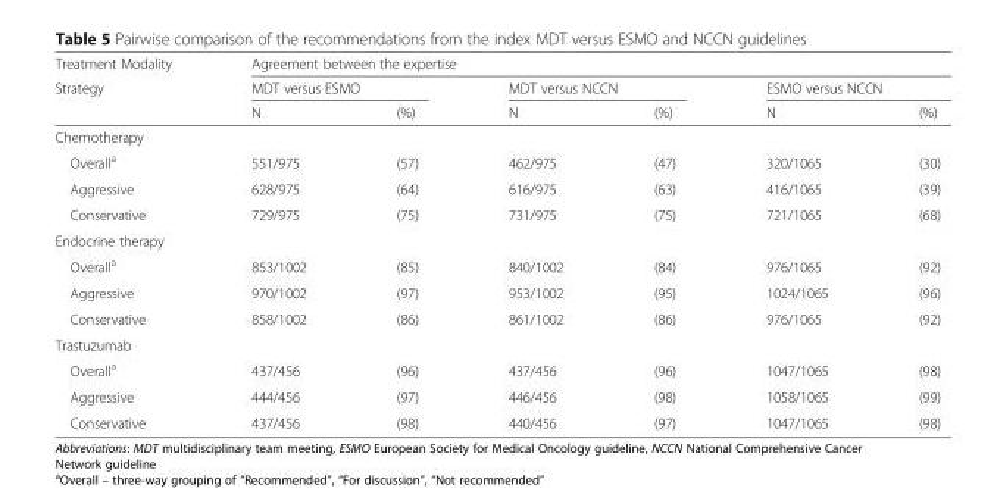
<table><thead><tr><td rowspan="3">Treatment Modality Strategy</td><td colspan="6">Agreement between the expertise</td></tr><tr><td colspan="2">MDT versus ESMO</td><td colspan="2">MDT versus NCCN</td><td colspan="2">ESMO versus NCCN</td></tr><tr><td>N</td><td>(%)</td><td>N</td><td>(%)</td><td>N</td><td>(%)</td></tr></thead><tbody><tr><td colspan="7">Chemotherapy</td></tr><tr><td>Overall<sup>a</sup></td><td>551/975</td><td>(57)</td><td>462/975</td><td>(47)</td><td>320/1065</td><td>(30)</td></tr><tr><td>Aggressive</td><td>628/975</td><td>(64)</td><td>616/975</td><td>(63)</td><td>416/1065</td><td>(39)</td></tr><tr><td>Conservative</td><td>729/975</td><td>(75)</td><td>731/975</td><td>(75)</td><td>721/1065</td><td>(68)</td></tr><tr><td colspan="7">Endocrine therapy</td></tr><tr><td>Overall<sup>a</sup></td><td>853/1002</td><td>(85)</td><td>840/1002</td><td>(84)</td><td>976/1065</td><td>(92)</td></tr><tr><td>Aggressive</td><td>970/1002</td><td>(97)</td><td>953/1002</td><td>(95)</td><td>1024/1065</td><td>(96)</td></tr><tr><td>Conservative</td><td>858/1002</td><td>(86)</td><td>861/1002</td><td>(86)</td><td>976/1065</td><td>(92)</td></tr><tr><td colspan="7">Trastuzumab</td></tr><tr><td>Overall<sup>a</sup></td><td>437/456</td><td>(96)</td><td>437/456</td><td>(96)</td><td>1047/1065</td><td>(98)</td></tr><tr><td>Aggressive</td><td>444/456</td><td>(97)</td><td>446/456</td><td>(98)</td><td>1058/1065</td><td>(99)</td></tr><tr><td>Conservative</td><td>437/456</td><td>(98)</td><td>440/456</td><td>(97)</td><td>1047/1065</td><td>(98)</td></tr></tbody></table>